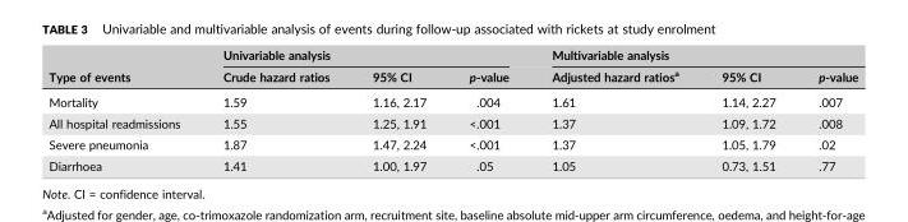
<table><thead><tr><td rowspan="2">Type of events</td><td colspan="3">Univariable analysis</td><td colspan="3">Multivariable analysis</td></tr><tr><td>Crude hazard ratios</td><td>95% CI</td><td>p‐value</td><td>Adjusted hazard ratios<sup>a</sup></td><td>95% CI</td><td>p‐value</td></tr></thead><tbody><tr><td>Mortality</td><td>1.59</td><td>1.16, 2.17</td><td>.004</td><td>1.61</td><td>1.14, 2.27</td><td>.007</td></tr><tr><td>All hospital readmissions</td><td>1.55</td><td>1.25, 1.91</td><td>&lt;.001</td><td>1.37</td><td>1.09, 1.72</td><td>.008</td></tr><tr><td>Severe pneumonia</td><td>1.87</td><td>1.47, 2.24</td><td>&lt;.001</td><td>1.37</td><td>1.05, 1.79</td><td>.02</td></tr><tr><td>Diarrhoea</td><td>1.41</td><td>1.00, 1.97</td><td>.05</td><td>1.05</td><td>0.73, 1.51</td><td>.77</td></tr></tbody></table>